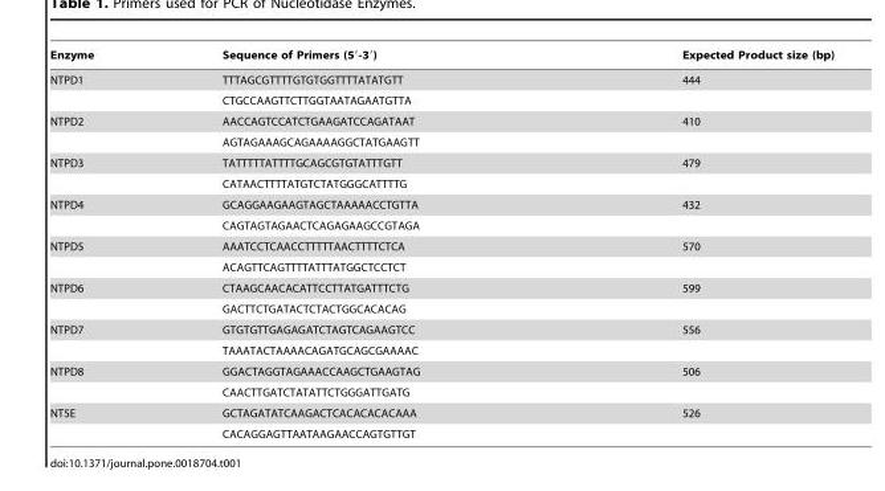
<table><thead><tr><td>Enzyme</td><td>Sequence of Primers (5′-3′)</td><td>Expected Product size (bp)</td></tr></thead><tbody><tr><td rowspan="2">NTPD1</td><td>TTTAGCGTTTTGTGTGGTTTTATATGTT</td><td>444</td></tr><tr><td>CTGCCAAGTTCTTGGTAATAGAATGTTA</td><td></td></tr><tr><td rowspan="2">NTPD2</td><td>AACCAGTCCATCTGAAGATCCAGATAAT</td><td>410</td></tr><tr><td>AGTAGAAAGCAGAAAAGGCTATGAAGTT</td><td></td></tr><tr><td rowspan="2">NTPD3</td><td>TATTTTTATTTTGCAGCGTGTATTTGTT</td><td>479</td></tr><tr><td>CATAACTTTTATGTCTATGGGCATTTTG</td><td></td></tr><tr><td rowspan="2">NTPD4</td><td>GCAGGAAGAAGTAGCTAAAAACCTGTTA</td><td>432</td></tr><tr><td>CAGTAGTAGAACTCAGAGAAGCCGTAGA</td><td></td></tr><tr><td rowspan="2">NTPD5</td><td>AAATCCTCAACCTTTTTAACTTTTCTCA</td><td>570</td></tr><tr><td>ACAGTTCAGTTTTATTTATGGCTCCTCT</td><td></td></tr><tr><td rowspan="2">NTPD6</td><td>CTAAGCAACACATTCCTTATGATTTCTG</td><td>599</td></tr><tr><td>GACTTCTGATACTCTACTGGCACACAG</td><td></td></tr><tr><td rowspan="2">NTPD7</td><td>GTGTGTTGAGAGATCTAGTCAGAAGTCC</td><td>556</td></tr><tr><td>TAAATACTAAAACAGATGCAGCGAAAAC</td><td></td></tr><tr><td rowspan="2">NTPD8</td><td>GGACTAGGTAGAAACCAAGCTGAAGTAG</td><td>506</td></tr><tr><td>CAACTTGATCTATATTCTGGGATTGATG</td><td></td></tr><tr><td rowspan="2">NT5E</td><td>GCTAGATATCAAGACTCACACACACAAA</td><td>526</td></tr><tr><td>CACAGGAGTTAATAAGAACCAGTGTTGT</td><td></td></tr></tbody></table>